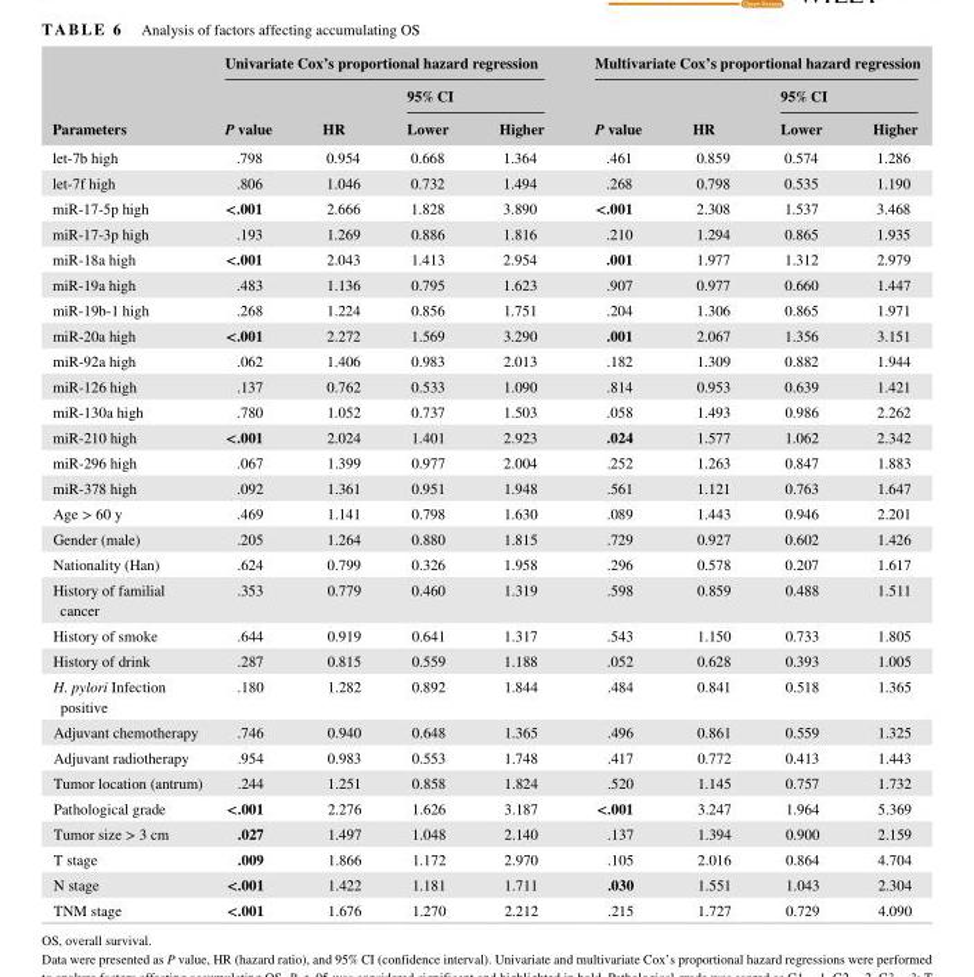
<table><thead><tr><td rowspan="3">Parameters</td><td colspan="4">Univariate Cox’s proportional hazard regression</td><td colspan="4">Multivariate Cox’s proportional hazard regression</td></tr><tr><td rowspan="2">P value</td><td rowspan="2">HR</td><td colspan="2">95% CI</td><td rowspan="2">P value</td><td rowspan="2">HR</td><td colspan="2">95% CI</td></tr><tr><td>Lower</td><td>Higher</td><td>Lower</td><td>Higher</td></tr></thead><tbody><tr><td>let- 7b high</td><td>.798</td><td>0.954</td><td>0.668</td><td>1.364</td><td>.461</td><td>0.859</td><td>0.574</td><td>1.286</td></tr><tr><td>let- 7f high</td><td>.806</td><td>1.046</td><td>0.732</td><td>1.494</td><td>.268</td><td>0.798</td><td>0.535</td><td>1.190</td></tr><tr><td>miR- 17- 5p high</td><td>&lt;.001</td><td>2.666</td><td>1.828</td><td>3.890</td><td>&lt;.001</td><td>2.308</td><td>1.537</td><td>3.468</td></tr><tr><td>miR- 17- 3p high</td><td>.193</td><td>1.269</td><td>0.886</td><td>1.816</td><td>.210</td><td>1.294</td><td>0.865</td><td>1.935</td></tr><tr><td>miR- 18a high</td><td>&lt;.001</td><td>2.043</td><td>1.413</td><td>2.954</td><td>.001</td><td>1.977</td><td>1.312</td><td>2.979</td></tr><tr><td>miR- 19a high</td><td>.483</td><td>1.136</td><td>0.795</td><td>1.623</td><td>.907</td><td>0.977</td><td>0.660</td><td>1.447</td></tr><tr><td>miR- 19b- 1 high</td><td>.268</td><td>1.224</td><td>0.856</td><td>1.751</td><td>.204</td><td>1.306</td><td>0.865</td><td>1.971</td></tr><tr><td>miR- 20a high</td><td>&lt;.001</td><td>2.272</td><td>1.569</td><td>3.290</td><td>.001</td><td>2.067</td><td>1.356</td><td>3.151</td></tr><tr><td>miR- 92a high</td><td>.062</td><td>1.406</td><td>0.983</td><td>2.013</td><td>.182</td><td>1.309</td><td>0.882</td><td>1.944</td></tr><tr><td>miR- 126 high</td><td>.137</td><td>0.762</td><td>0.533</td><td>1.090</td><td>.814</td><td>0.953</td><td>0.639</td><td>1.421</td></tr><tr><td>miR- 130a high</td><td>.780</td><td>1.052</td><td>0.737</td><td>1.503</td><td>.058</td><td>1.493</td><td>0.986</td><td>2.262</td></tr><tr><td>miR- 210 high</td><td>&lt;.001</td><td>2.024</td><td>1.401</td><td>2.923</td><td>.024</td><td>1.577</td><td>1.062</td><td>2.342</td></tr><tr><td>miR- 296 high</td><td>.067</td><td>1.399</td><td>0.977</td><td>2.004</td><td>.252</td><td>1.263</td><td>0.847</td><td>1.883</td></tr><tr><td>miR- 378 high</td><td>.092</td><td>1.361</td><td>0.951</td><td>1.948</td><td>.561</td><td>1.121</td><td>0.763</td><td>1.647</td></tr><tr><td>Age &gt; 60 y</td><td>.469</td><td>1.141</td><td>0.798</td><td>1.630</td><td>.089</td><td>1.443</td><td>0.946</td><td>2.201</td></tr><tr><td>Gender (male)</td><td>.205</td><td>1.264</td><td>0.880</td><td>1.815</td><td>.729</td><td>0.927</td><td>0.602</td><td>1.426</td></tr><tr><td>Nationality (Han)</td><td>.624</td><td>0.799</td><td>0.326</td><td>1.958</td><td>.296</td><td>0.578</td><td>0.207</td><td>1.617</td></tr><tr><td>History of familial cancer</td><td>.353</td><td>0.779</td><td>0.460</td><td>1.319</td><td>.598</td><td>0.859</td><td>0.488</td><td>1.511</td></tr><tr><td>History of smoke</td><td>.644</td><td>0.919</td><td>0.641</td><td>1.317</td><td>.543</td><td>1.150</td><td>0.733</td><td>1.805</td></tr><tr><td>History of drink</td><td>.287</td><td>0.815</td><td>0.559</td><td>1.188</td><td>.052</td><td>0.628</td><td>0.393</td><td>1.005</td></tr><tr><td>H. pylori Infection positive</td><td>.180</td><td>1.282</td><td>0.892</td><td>1.844</td><td>.484</td><td>0.841</td><td>0.518</td><td>1.365</td></tr><tr><td>Adjuvant chemotherapy</td><td>.746</td><td>0.940</td><td>0.648</td><td>1.365</td><td>.496</td><td>0.861</td><td>0.559</td><td>1.325</td></tr><tr><td>Adjuvant radiotherapy</td><td>.954</td><td>0.983</td><td>0.553</td><td>1.748</td><td>.417</td><td>0.772</td><td>0.413</td><td>1.443</td></tr><tr><td>Tumor location (antrum)</td><td>.244</td><td>1.251</td><td>0.858</td><td>1.824</td><td>.520</td><td>1.145</td><td>0.757</td><td>1.732</td></tr><tr><td>Pathological grade</td><td>&lt;.001</td><td>2.276</td><td>1.626</td><td>3.187</td><td>&lt;.001</td><td>3.247</td><td>1.964</td><td>5.369</td></tr><tr><td>Tumor size &gt; 3 cm</td><td>.027</td><td>1.497</td><td>1.048</td><td>2.140</td><td>.137</td><td>1.394</td><td>0.900</td><td>2.159</td></tr><tr><td>T stage</td><td>.009</td><td>1.866</td><td>1.172</td><td>2.970</td><td>.105</td><td>2.016</td><td>0.864</td><td>4.704</td></tr><tr><td>N stage</td><td>&lt;.001</td><td>1.422</td><td>1.181</td><td>1.711</td><td>.030</td><td>1.551</td><td>1.043</td><td>2.304</td></tr><tr><td>TNM stage</td><td>&lt;.001</td><td>1.676</td><td>1.270</td><td>2.212</td><td>.215</td><td>1.727</td><td>0.729</td><td>4.090</td></tr></tbody></table>